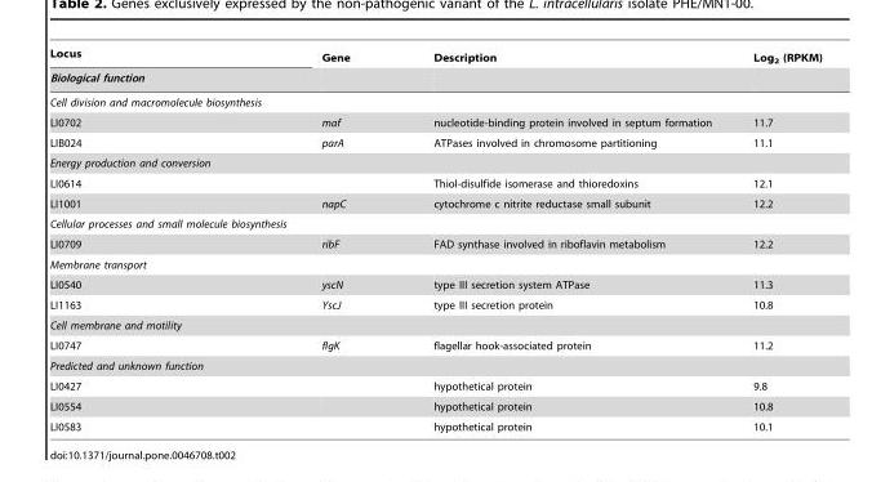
<table><thead><tr><td rowspan="2">Locus Biological function</td><td rowspan="2">Gene</td><td rowspan="2">Description</td><td rowspan="2">Log<sub>2</sub> (RPKM)</td></tr><tr></tr></thead><tbody><tr><td colspan="4">Cell division and macromolecule biosynthesis</td></tr><tr><td>LI0702</td><td>maf</td><td>nucleotide-binding protein involved in septum formation</td><td>11.7</td></tr><tr><td>LIB024</td><td>parA</td><td>ATPases involved in chromosome partitioning</td><td>11.1</td></tr><tr><td colspan="4">Energy production and conversion</td></tr><tr><td>LI0614</td><td></td><td>Thiol-disulfide isomerase and thioredoxins</td><td>12.1</td></tr><tr><td>LI1001</td><td>napC</td><td>cytochrome c nitrite reductase small subunit</td><td>12.2</td></tr><tr><td colspan="4">Cellular processes and small molecule biosynthesis</td></tr><tr><td>LI0709</td><td>ribF</td><td>FAD synthase involved in riboflavin metabolism</td><td>12.2</td></tr><tr><td colspan="4">Membrane transport</td></tr><tr><td>LI0540</td><td>yscN</td><td>type III secretion system ATPase</td><td>11.3</td></tr><tr><td>LI1163</td><td>YscJ</td><td>type III secretion protein</td><td>10.8</td></tr><tr><td colspan="4">Cell membrane and motility</td></tr><tr><td>LI0747</td><td>flgK</td><td>flagellar hook-associated protein</td><td>11.2</td></tr><tr><td colspan="4">Predicted and unknown function</td></tr><tr><td>LI0427</td><td></td><td>hypothetical protein</td><td>9.8</td></tr><tr><td>LI0554</td><td></td><td>hypothetical protein</td><td>10.8</td></tr><tr><td>LI0583</td><td></td><td>hypothetical protein</td><td>10.1</td></tr></tbody></table>